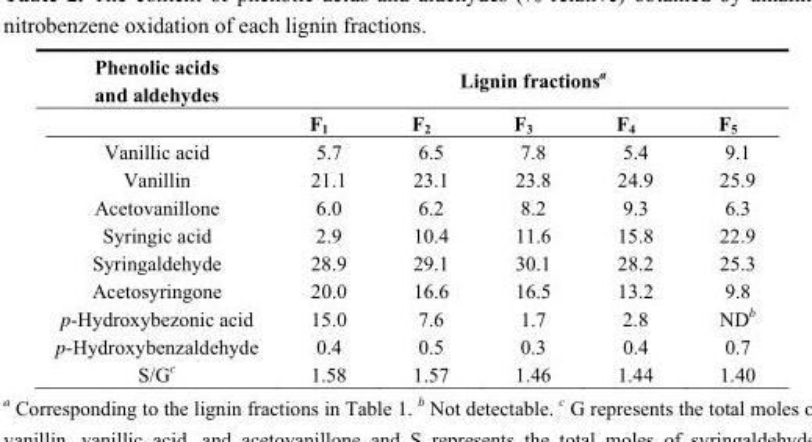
<table><thead><tr><td rowspan="2">Phenolic acids and aldehydes</td><td colspan="5">Lignin fractions<sup>a</sup></td></tr><tr><td>F<sub>1</sub></td><td>F<sub>2</sub></td><td>F<sub>3</sub></td><td>F<sub>4</sub></td><td>F<sub>5</sub></td></tr></thead><tbody><tr><td>Vanillic acid</td><td>5.7</td><td>6.5</td><td>7.8</td><td>5.4</td><td>9.1</td></tr><tr><td>Vanillin</td><td>21.1</td><td>23.1</td><td>23.8</td><td>24.9</td><td>25.9</td></tr><tr><td>Acetovanillone</td><td>6.0</td><td>6.2</td><td>8.2</td><td>9.3</td><td>6.3</td></tr><tr><td>Syringic acid</td><td>2.9</td><td>10.4</td><td>11.6</td><td>15.8</td><td>22.9</td></tr><tr><td>Syringaldehyde</td><td>28.9</td><td>29.1</td><td>30.1</td><td>28.2</td><td>25.3</td></tr><tr><td>Acetosyringone</td><td>20.0</td><td>16.6</td><td>16.5</td><td>13.2</td><td>9.8</td></tr><tr><td>p-Hydroxybezonic acid</td><td>15.0</td><td>7.6</td><td>1.7</td><td>2.8</td><td>ND<sup>b</sup></td></tr><tr><td>p-Hydroxybenzaldehyde</td><td>0.4</td><td>0.5</td><td>0.3</td><td>0.4</td><td>0.7</td></tr><tr><td>S/G<sup>c</sup></td><td>1.58</td><td>1.57</td><td>1.46</td><td>1.44</td><td>1.40</td></tr></tbody></table>